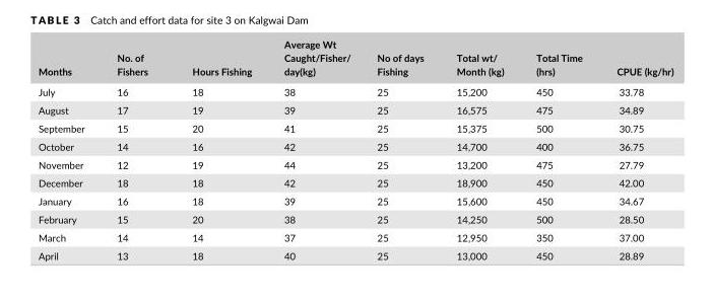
<table><thead><tr><td>Months</td><td>No. of Fishers</td><td>Hours Fishing</td><td>Average Wt Caught/Fisher/ day(kg)</td><td>No of days Fishing</td><td>Total wt/ Month (kg)</td><td>Total Time (hrs)</td><td>CPUE (kg/hr)</td></tr></thead><tbody><tr><td>July</td><td>16</td><td>18</td><td>38</td><td>25</td><td>15,200</td><td>450</td><td>33.78</td></tr><tr><td>August</td><td>17</td><td>19</td><td>39</td><td>25</td><td>16,575</td><td>475</td><td>34.89</td></tr><tr><td>September</td><td>15</td><td>20</td><td>41</td><td>25</td><td>15,375</td><td>500</td><td>30.75</td></tr><tr><td>October</td><td>14</td><td>16</td><td>42</td><td>25</td><td>14,700</td><td>400</td><td>36.75</td></tr><tr><td>November</td><td>12</td><td>19</td><td>44</td><td>25</td><td>13,200</td><td>475</td><td>27.79</td></tr><tr><td>December</td><td>18</td><td>18</td><td>42</td><td>25</td><td>18,900</td><td>450</td><td>42.00</td></tr><tr><td>January</td><td>16</td><td>18</td><td>39</td><td>25</td><td>15,600</td><td>450</td><td>34.67</td></tr><tr><td>February</td><td>15</td><td>20</td><td>38</td><td>25</td><td>14,250</td><td>500</td><td>28.50</td></tr><tr><td>March</td><td>14</td><td>14</td><td>37</td><td>25</td><td>12,950</td><td>350</td><td>37.00</td></tr><tr><td>April</td><td>13</td><td>18</td><td>40</td><td>25</td><td>13,000</td><td>450</td><td>28.89</td></tr></tbody></table>